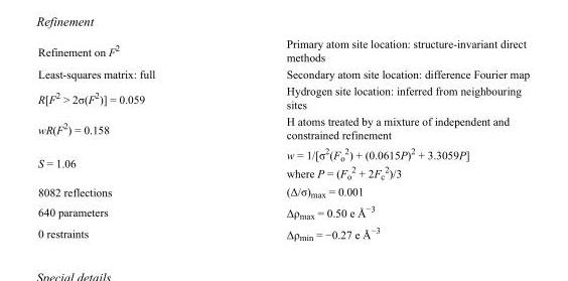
<table><tbody><tr><td>Refinement on F<sup>2</sup></td><td>Primary atom site location: structure-invariant direct methods</td></tr><tr><td>Least-squares matrix: full</td><td>Secondary atom site location: difference Fourier map</td></tr><tr><td>R[F<sup>2</sup> &gt; 2σ(F<sup>2</sup>)] = 0.059</td><td>Hydrogen site location: inferred from neighbouring sites</td></tr><tr><td>wR(F<sup>2</sup>) = 0.158</td><td>H atoms treated by a mixture of independent and constrained refinement</td></tr><tr><td>S = 1.06</td><td>w = 1/[σ<sup>2</sup>(F<sub>o</sub> <sup>2</sup>) + (0.0615P)<sup>2</sup> + 3.3059P] where P = (F<sub>o</sub> <sup>2</sup> + 2F<sub>c</sub> <sup>2</sup>)/3</td></tr><tr><td>8082 reflections</td><td>(Δ/σ)<sub>max</sub> = 0.001</td></tr><tr><td>640 parameters</td><td>Δρ<sub>max</sub> = 0.50 e Å<sup>−3</sup></td></tr><tr><td>0 restraints</td><td>Δρ<sub>min</sub> = −0.27 e Å<sup>−3</sup></td></tr></tbody></table>